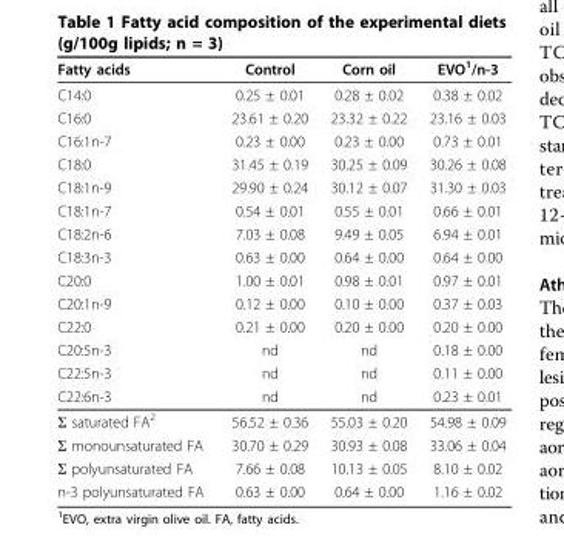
<table><thead><tr><td>Fatty acids</td><td>Control</td><td>Corn oil</td><td>EVO<sup>1</sup>/n-3</td></tr></thead><tbody><tr><td>C14:0</td><td>0.25 ± 0.01</td><td>0.28 ± 0.02</td><td>0.38 ± 0.02</td></tr><tr><td>C16:0</td><td>23.61 ± 0.20</td><td>23.32 ± 0.22</td><td>23.16 ± 0.03</td></tr><tr><td>C16:1n-7</td><td>0.23 ± 0.00</td><td>0.23 ± 0.00</td><td>0.73 ± 0.01</td></tr><tr><td>C18:0</td><td>31.45 ± 0.19</td><td>30.25 ± 0.09</td><td>30.26 ± 0.08</td></tr><tr><td>C18:1n-9</td><td>29.90 ± 0.24</td><td>30.12 ± 0.07</td><td>31.30 ± 0.03</td></tr><tr><td>C18:1n-7</td><td>0.54 ± 0.01</td><td>0.55 ± 0.01</td><td>0.66 ± 0.01</td></tr><tr><td>C18:2n-6</td><td>7.03 ± 0.08</td><td>9.49 ± 0.05</td><td>6.94 ± 0.01</td></tr><tr><td>C18:3n-3</td><td>0.63 ± 0.00</td><td>0.64 ± 0.00</td><td>0.64 ± 0.00</td></tr><tr><td>C20:0</td><td>1.00 ± 0.01</td><td>0.98 ± 0.01</td><td>0.97 ± 0.01</td></tr><tr><td>C20:1n-9</td><td>0.12 ± 0.00</td><td>0.10 ± 0.00</td><td>0.37 ± 0.03</td></tr><tr><td>C22:0</td><td>0.21 ± 0.00</td><td>0.20 ± 0.00</td><td>0.20 ± 0.00</td></tr><tr><td>C20:5n-3</td><td>nd</td><td>nd</td><td>0.18 ± 0.00</td></tr><tr><td>C22:5n-3</td><td>nd</td><td>nd</td><td>0.11 ± 0.00</td></tr><tr><td>C22:6n-3</td><td>nd</td><td>nd</td><td>0.23 ± 0.01</td></tr><tr><td>Σ saturated FA<sup>2</sup></td><td>56.52 ± 0.36</td><td>55.03 ± 0.20</td><td>54.98 ± 0.09</td></tr><tr><td>Σ monounsaturated FA</td><td>30.70 ± 0.29</td><td>30.93 ± 0.08</td><td>33.06 ± 0.04</td></tr><tr><td>Σ polyunsaturated FA</td><td>7.66 ± 0.08</td><td>10.13 ± 0.05</td><td>8.10 ± 0.02</td></tr><tr><td>n-3 polyunsaturated FA</td><td>0.63 ± 0.00</td><td>0.64 ± 0.00</td><td>1.16 ± 0.02</td></tr></tbody></table>